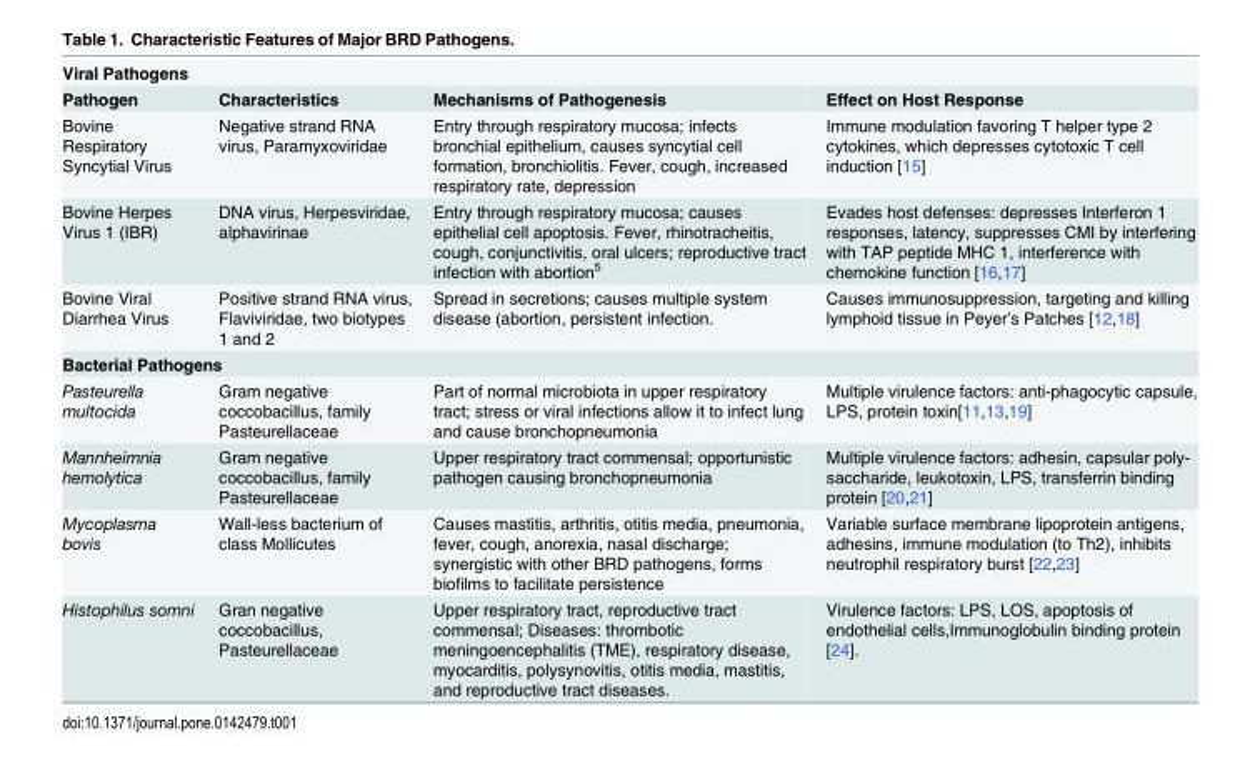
<table><tbody><tr><td colspan="4">Viral Pathogens</td></tr><tr><td>Pathogen</td><td>Characteristics</td><td>Mechanisms of Pathogenesis</td><td>Effect on Host Response</td></tr><tr><td>Bovine Respiratory Syncytial Virus</td><td>Negative strand RNA virus, Paramyxoviridae</td><td>Entry through respiratory mucosa; infects bronchial epithelium, causes syncytial cell formation, bronchiolitis. Fever, cough, increased respiratory rate, depression</td><td>Immune modulation favoring T helper type 2 cytokines, which depresses cytotoxic T cell induction [15]</td></tr><tr><td>Bovine Herpes Virus 1 (IBR)</td><td>DNA virus, Herpesviridae, alphavirinae</td><td>Entry through respiratory mucosa; causes epithelial cell apoptosis. Fever, rhinotracheitis, cough, conjunctivitis, oral ulcers; reproductive tract infection with abortion<sup>5</sup></td><td>Evades host defenses: depresses Interferon 1 responses, latency, suppresses CMI by interfering with TAP peptide MHC 1, interference with chemokine function [16,17]</td></tr><tr><td>Bovine Viral Diarrhea Virus</td><td>Positive strand RNA virus, Flaviviridae, two biotypes 1 and 2</td><td>Spread in secretions; causes multiple system disease (abortion, persistent infection.</td><td>Causes immunosuppression, targeting and killing lymphoid tissue in Peyer’s Patches [12,18]</td></tr><tr><td colspan="4">Bacterial Pathogens</td></tr><tr><td>Pasteurella multocida</td><td>Gram negative coccobacillus, family Pasteurellaceae</td><td>Part of normal microbiota in upper respiratory tract; stress or viral infections allow it to infect lung and cause bronchopneumonia</td><td>Multiple virulence factors: anti-phagocytic capsule, LPS, protein toxin[11,13,19]</td></tr><tr><td>Mannheimnia hemolytica</td><td>Gram negative coccobacillus, family Pasteurellaceae</td><td>Upper respiratory tract commensal; opportunistic pathogen causing bronchopneumonia</td><td>Multiple virulence factors: adhesin, capsular poly- saccharide, leukotoxin, LPS, transferrin binding protein [20,21]</td></tr><tr><td>Mycoplasma bovis</td><td>Wall-less bacterium of class Mollicutes</td><td>Causes mastitis, arthritis, otitis media, pneumonia, fever, cough, anorexia, nasal discharge; synergistic with other BRD pathogens, forms biofilms to facilitate persistence</td><td>Variable surface membrane lipoprotein antigens, adhesins, immune modulation (to Th2), inhibits neutrophil respiratory burst [22,23]</td></tr><tr><td>Histophilus somni</td><td>Gran negative coccobacillus, Pasteurellaceae</td><td>Upper respiratory tract, reproductive tract commensal; Diseases: thrombotic meningoencephalitis (TME), respiratory disease, myocarditis, polysynovitis, otitis media, mastitis, and reproductive tract diseases.</td><td>Virulence factors: LPS, LOS, apoptosis of endothelial cells,Immunoglobulin binding protein [24].</td></tr></tbody></table>